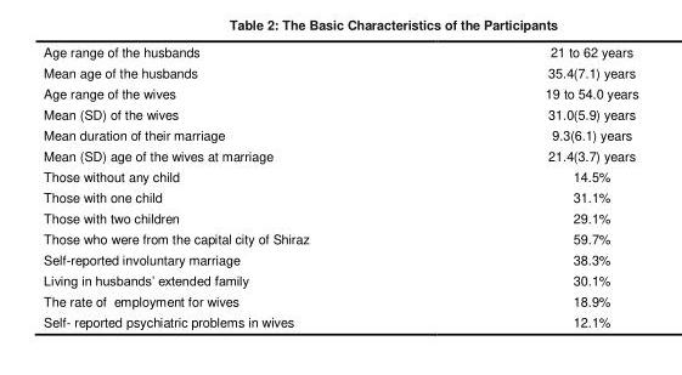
<table><tbody><tr><td>Age range of the husbands</td><td>21 to 62 years</td></tr><tr><td>Mean age of the husbands</td><td>35.4(7.1) years</td></tr><tr><td>Age range of the wives</td><td>19 to 54.0 years</td></tr><tr><td>Mean (SD) of the wives</td><td>31.0(5.9) years</td></tr><tr><td>Mean duration of their marriage</td><td>9.3(6.1) years</td></tr><tr><td>Mean (SD) age of the wives at marriage</td><td>21.4(3.7) years</td></tr><tr><td>Those without any child</td><td>14.5%</td></tr><tr><td>Those with one child</td><td>31.1%</td></tr><tr><td>Those with two children</td><td>29.1%</td></tr><tr><td>Those who were from the capital city of Shiraz</td><td>59.7%</td></tr><tr><td>Self-reported involuntary marriage</td><td>38.3%</td></tr><tr><td>Living in husbands’ extended family</td><td>30.1%</td></tr><tr><td>The rate of employment for wives</td><td>18.9%</td></tr><tr><td>Self- reported psychiatric problems in wives</td><td>12.1%</td></tr></tbody></table>